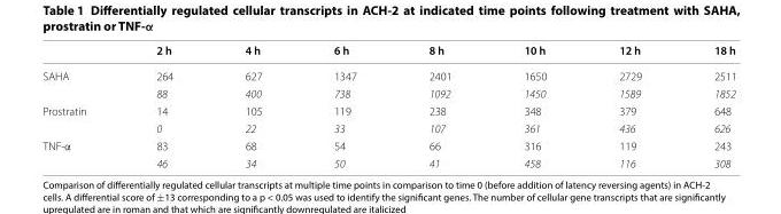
<table><thead><tr><td></td><td>2 h</td><td>4 h</td><td>6 h</td><td>8 h</td><td>10 h</td><td>12 h</td><td>18 h</td></tr></thead><tbody><tr><td rowspan="2">SAHA</td><td>264</td><td>627</td><td>1347</td><td>2401</td><td>1650</td><td>2729</td><td>2511</td></tr><tr><td>88</td><td>400</td><td>738</td><td>1092</td><td>1450</td><td>1589</td><td>1852</td></tr><tr><td rowspan="2">Prostratin</td><td>14</td><td>105</td><td>119</td><td>238</td><td>348</td><td>379</td><td>648</td></tr><tr><td>0</td><td>22</td><td>33</td><td>107</td><td>361</td><td>436</td><td>626</td></tr><tr><td rowspan="2">TNF‑α</td><td>83</td><td>68</td><td>54</td><td>66</td><td>316</td><td>119</td><td>243</td></tr><tr><td>46</td><td>34</td><td>50</td><td>41</td><td>458</td><td>116</td><td>308</td></tr></tbody></table>